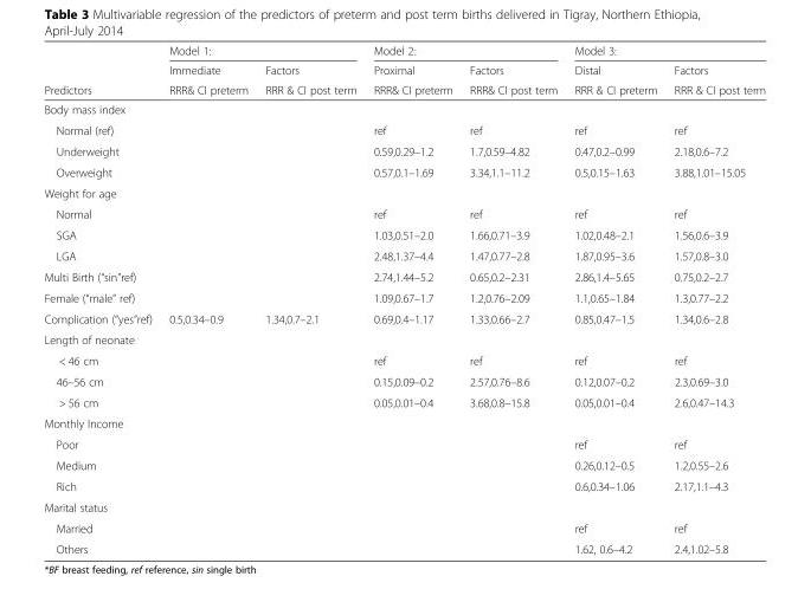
<table><thead><tr><td rowspan="3">Predictors</td><td colspan="2">Model 1:</td><td colspan="2">Model 2:</td><td colspan="2">Model 3:</td></tr><tr><td rowspan="2">Immediate RRR&amp; CI preterm</td><td rowspan="2">Factors RRR &amp; CI post term</td><td rowspan="2">Proximal RRR&amp; CI preterm</td><td rowspan="2">Factors RRR&amp; CI post term</td><td rowspan="2">Distal RRR &amp; CI preterm</td><td rowspan="2">Factors RRR &amp; CI post term</td></tr><tr></tr></thead><tbody><tr><td colspan="7">Body mass index</td></tr><tr><td>Normal (ref)</td><td></td><td></td><td>ref</td><td>ref</td><td>ref</td><td>ref</td></tr><tr><td>Underweight</td><td></td><td></td><td>0.59,0.29–1.2</td><td>1.7,0.59–4.82</td><td>0.47,0.2–0.99</td><td>2.18,0.6–7.2</td></tr><tr><td>Overweight</td><td></td><td></td><td>0.57,0.1–1.69</td><td>3.34,1.1–11.2</td><td>0.5,0.15–1.63</td><td>3.88,1.01–15.05</td></tr><tr><td colspan="7">Weight for age</td></tr><tr><td>Normal</td><td></td><td></td><td>ref</td><td>ref</td><td>ref</td><td>ref</td></tr><tr><td>SGA</td><td></td><td></td><td>1.03,0.51–2.0</td><td>1.66,0.71–3.9</td><td>1.02,0.48–2.1</td><td>1.56,0.6–3.9</td></tr><tr><td>LGA</td><td></td><td></td><td>2.48,1.37–4.4</td><td>1.47,0.77–2.8</td><td>1.87,0.95–3.6</td><td>1.57,0.8–3.0</td></tr><tr><td>Multi Birth (“sin”ref)</td><td></td><td></td><td>2.74,1.44–5.2</td><td>0.65,0.2–2.31</td><td>2.86,1.4–5.65</td><td>0.75,0.2–2.7</td></tr><tr><td>Female (“male” ref)</td><td></td><td></td><td>1.09,0.67–1.7</td><td>1.2,0.76–2.09</td><td>1.1,0.65–1.84</td><td>1.3,0.77–2.2</td></tr><tr><td>Complication (“yes”ref)</td><td>0.5,0.34–0.9</td><td>1.34,0.7–2.1</td><td>0.69,0.4–1.17</td><td>1.33,0.66–2.7</td><td>0.85,0.47–1.5</td><td>1.34,0.6–2.8</td></tr><tr><td colspan="7">Length of neonate</td></tr><tr><td>&lt; 46 cm</td><td></td><td></td><td>ref</td><td>ref</td><td>ref</td><td>ref</td></tr><tr><td>46–56 cm</td><td></td><td></td><td>0.15,0.09–0.2</td><td>2.57,0.76–8.6</td><td>0.12,0.07–0.2</td><td>2.3,0.69–3.0</td></tr><tr><td>&gt; 56 cm</td><td></td><td></td><td>0.05,0.01–0.4</td><td>3.68,0.8–15.8</td><td>0.05,0.01–0.4</td><td>2.6,0.47–14.3</td></tr><tr><td colspan="7">Monthly Income</td></tr><tr><td>Poor</td><td></td><td></td><td></td><td></td><td>ref</td><td>ref</td></tr><tr><td>Medium</td><td></td><td></td><td></td><td></td><td>0.26,0.12–0.5</td><td>1.2,0.55–2.6</td></tr><tr><td>Rich</td><td></td><td></td><td></td><td></td><td>0.6,0.34–1.06</td><td>2.17,1.1–4.3</td></tr><tr><td colspan="7">Marital status</td></tr><tr><td>Married</td><td></td><td></td><td></td><td></td><td>ref</td><td>ref</td></tr><tr><td>Others</td><td></td><td></td><td></td><td></td><td>1.62, 0.6–4.2</td><td>2.4,1.02–5.8</td></tr></tbody></table>